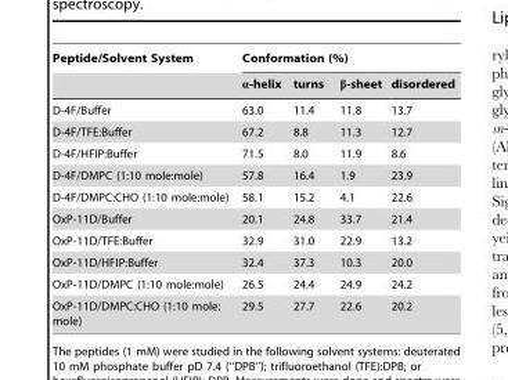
<table><thead><tr><td rowspan="2">Peptide/Solvent System</td><td colspan="4">Conformation (%)</td></tr><tr><td>α-helix</td><td>turns</td><td>β-sheet</td><td>disordered</td></tr></thead><tbody><tr><td>D-4F/Buffer</td><td>63.0</td><td>11.4</td><td>11.8</td><td>13.7</td></tr><tr><td>D-4F/TFE:Buffer</td><td>67.2</td><td>8.8</td><td>11.3</td><td>12.7</td></tr><tr><td>D-4F/HFIP:Buffer</td><td>71.5</td><td>8.0</td><td>11.9</td><td>8.6</td></tr><tr><td>D-4F/DMPC (1:10 mole:mole)</td><td>57.8</td><td>16.4</td><td>1.9</td><td>23.9</td></tr><tr><td>D-4F/DMPC:CHO (1:10 mole:mole)</td><td>58.1</td><td>15.2</td><td>4.1</td><td>22.6</td></tr><tr><td>OxP-11D/Buffer</td><td>20.1</td><td>24.8</td><td>33.7</td><td>21.4</td></tr><tr><td>OxP-11D/TFE:Buffer</td><td>32.9</td><td>31.0</td><td>22.9</td><td>13.2</td></tr><tr><td>OxP-11D/HFIP:Buffer</td><td>32.4</td><td>37.3</td><td>10.3</td><td>20.0</td></tr><tr><td>OxP-11D/DMPC (1:10 mole:mole)</td><td>26.5</td><td>24.4</td><td>24.9</td><td>24.2</td></tr><tr><td>OxP-11D/DMPC:CHO (1:10 mole: mole)</td><td>29.5</td><td>27.7</td><td>22.6</td><td>20.2</td></tr></tbody></table>